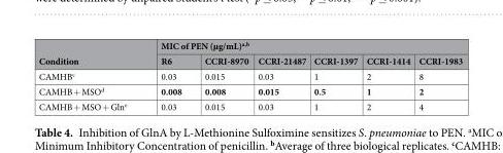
<table><thead><tr><td rowspan="2">Condition</td><td colspan="6">MIC of PEN (µg/mL)<sup>a,b</sup></td></tr><tr><td>R6</td><td>CCRI-8970</td><td>CCRI-21487</td><td>CCRI-1397</td><td>CCRI-1414</td><td>CCRI-1983</td></tr></thead><tbody><tr><td>CAMHB<sup>c</sup></td><td>0.03</td><td>0.015</td><td>0.03</td><td>1</td><td>2</td><td>8</td></tr><tr><td>CAMHB + MSO<sup>d</sup></td><td>0.008</td><td>0.008</td><td>0.015</td><td>0.5</td><td>1</td><td>2</td></tr><tr><td>CAMHB + MSO + Gln<sup>e</sup></td><td>0.03</td><td>0.015</td><td>0.03</td><td>1</td><td>2</td><td>4</td></tr></tbody></table>